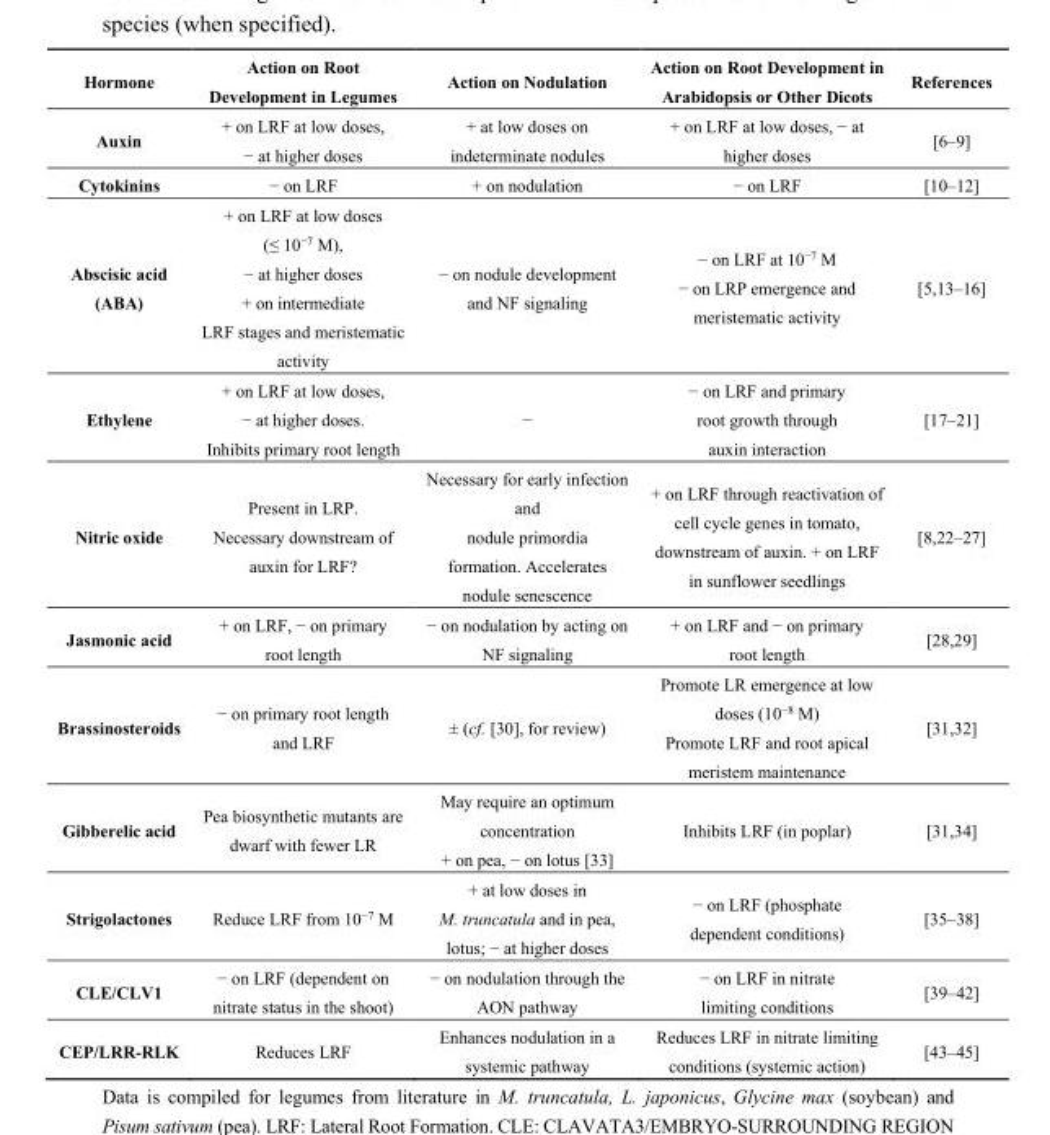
<table><thead><tr><td>Hormone</td><td>Action on Root Development in Legumes</td><td>Action on Nodulation</td><td>Action on Root Development in Arabidopsis or Other Dicots</td><td>References</td></tr></thead><tbody><tr><td>Auxin</td><td>+ on LRF at low doses, − at higher doses</td><td>+ at low doses on indeterminate nodules</td><td>+ on LRF at low doses, − at higher doses</td><td>[6–9]</td></tr><tr><td>Cytokinins</td><td>− on LRF</td><td>+ on nodulation</td><td>− on LRF</td><td>[10–12]</td></tr><tr><td>Abscisic acid (ABA)</td><td>+ on LRF at low doses (≤ 10<sup>−7</sup> M), − at higher doses + on intermediate LRF stages and meristematic activity</td><td>− on nodule development and NF signaling</td><td>− on LRF at 10<sup>−7</sup> M − on LRP emergence and meristematic activity</td><td>[5,13–16]</td></tr><tr><td>Ethylene</td><td>+ on LRF at low doses, − at higher doses. Inhibits primary root length</td><td>−</td><td>− on LRF and primary root growth through auxin interaction</td><td>[17–21]</td></tr><tr><td>Nitric oxide</td><td>Present in LRP. Necessary downstream of auxin for LRF?</td><td>Necessary for early infection and nodule primordia formation. Accelerates nodule senescence</td><td>+ on LRF through reactivation of cell cycle genes in tomato, downstream of auxin. + on LRF in sunflower seedlings</td><td>[8,22–27]</td></tr><tr><td>Jasmonic acid</td><td>+ on LRF, − on primary root length</td><td>− on nodulation by acting on NF signaling</td><td>+ on LRF and − on primary root length</td><td>[28,29]</td></tr><tr><td>Brassinosteroids</td><td>− on primary root length and LRF</td><td>± (cf. [30], for review)</td><td>Promote LR emergence at low doses (10<sup>−8</sup> M) Promote LRF and root apical meristem maintenance</td><td>[31,32]</td></tr><tr><td>Gibberelic acid</td><td>Pea biosynthetic mutants are dwarf with fewer LR</td><td>May require an optimum concentration + on pea, − on lotus [33]</td><td>Inhibits LRF (in poplar)</td><td>[31,34]</td></tr><tr><td>Strigolactones</td><td>Reduce LRF from 10<sup>−7</sup> M</td><td>+ at low doses in M. truncatula and in pea, lotus; − at higher doses</td><td>− on LRF (phosphate dependent conditions)</td><td>[35–38]</td></tr><tr><td>CLE/CLV1</td><td>− on LRF (dependent on nitrate status in the shoot)</td><td>− on nodulation through the AON pathway</td><td>− on LRF in nitrate limiting conditions</td><td>[39–42]</td></tr><tr><td>CEP/LRR-RLK</td><td>Reduces LRF</td><td>Enhances nodulation in a systemic pathway</td><td>Reduces LRF in nitrate limiting conditions (systemic action)</td><td>[43–45]</td></tr></tbody></table>